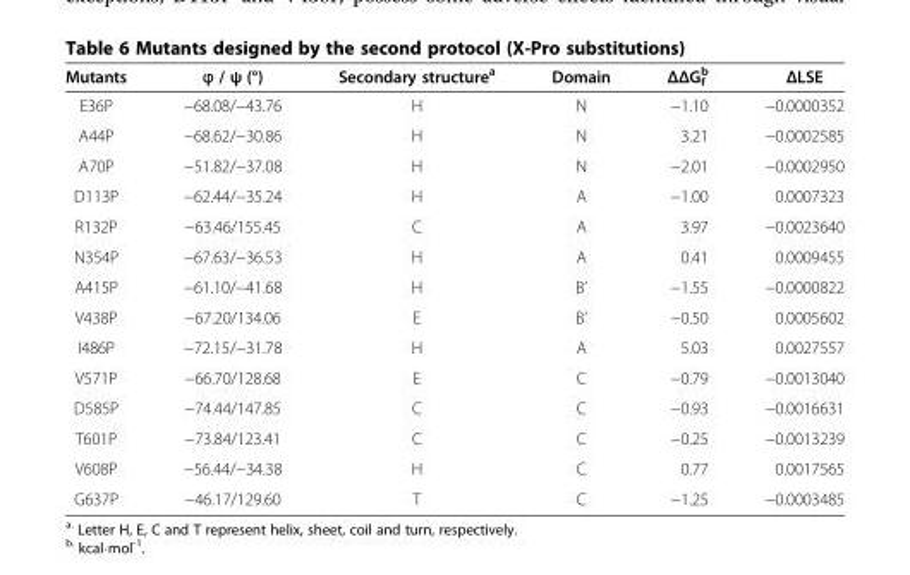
<table><thead><tr><td>Mutants</td><td>ϕ / ψ (°)</td><td>Secondary structure<sup>a</sup></td><td>Domain</td><td>ΔΔG<sub>f</sub> <sup>b</sup></td><td>ΔLSE</td></tr></thead><tbody><tr><td>E36P</td><td>−68.08/−43.76</td><td>H</td><td>N</td><td>−1.10</td><td>−0.0000352</td></tr><tr><td>A44P</td><td>−68.62/−30.86</td><td>H</td><td>N</td><td>3.21</td><td>−0.0002585</td></tr><tr><td>A70P</td><td>−51.82/−37.08</td><td>H</td><td>N</td><td>−2.01</td><td>−0.0002950</td></tr><tr><td>D113P</td><td>−62.44/−35.24</td><td>H</td><td>A</td><td>−1.00</td><td>0.0007323</td></tr><tr><td>R132P</td><td>−63.46/155.45</td><td>C</td><td>A</td><td>3.97</td><td>−0.0023640</td></tr><tr><td>N354P</td><td>−67.63/−36.53</td><td>H</td><td>A</td><td>0.41</td><td>0.0009455</td></tr><tr><td>A415P</td><td>−61.10/−41.68</td><td>H</td><td>B’</td><td>−1.55</td><td>−0.0000822</td></tr><tr><td>V438P</td><td>−67.20/134.06</td><td>E</td><td>B’</td><td>−0.50</td><td>0.0005602</td></tr><tr><td>I486P</td><td>−72.15/−31.78</td><td>H</td><td>A</td><td>5.03</td><td>0.0027557</td></tr><tr><td>V571P</td><td>−66.70/128.68</td><td>E</td><td>C</td><td>−0.79</td><td>−0.0013040</td></tr><tr><td>D585P</td><td>−74.44/147.85</td><td>C</td><td>C</td><td>−0.93</td><td>−0.0016631</td></tr><tr><td>T601P</td><td>−73.84/123.41</td><td>C</td><td>C</td><td>−0.25</td><td>−0.0013239</td></tr><tr><td>V608P</td><td>−56.44/−34.38</td><td>H</td><td>C</td><td>0.77</td><td>0.0017565</td></tr><tr><td>G637P</td><td>−46.17/129.60</td><td>T</td><td>C</td><td>−1.25</td><td>−0.0003485</td></tr></tbody></table>